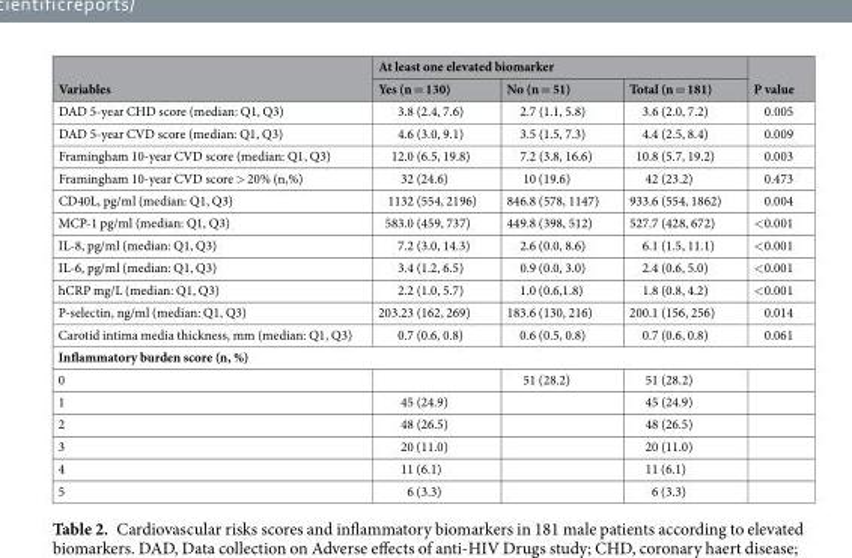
<table><thead><tr><td rowspan="2">Variables</td><td colspan="3">At least one elevated biomarker</td><td rowspan="2">P value</td></tr><tr><td>Yes (n = 130)</td><td>No (n = 51)</td><td>Total (n = 181)</td></tr></thead><tbody><tr><td>DAD 5-year CHD score (median: Q1, Q3)</td><td>3.8 (2.4, 7.6)</td><td>2.7 (1.1, 5.8)</td><td>3.6 (2.0, 7.2)</td><td>0.005</td></tr><tr><td>DAD 5-year CVD score (median: Q1, Q3)</td><td>4.6 (3.0, 9.1)</td><td>3.5 (1.5, 7.3)</td><td>4.4 (2.5, 8.4)</td><td>0.009</td></tr><tr><td>Framingham 10-year CVD score (median: Q1, Q3)</td><td>12.0 (6.5, 19.8)</td><td>7.2 (3.8, 16.6)</td><td>10.8 (5.7, 19.2)</td><td>0.003</td></tr><tr><td>Framingham 10-year CVD score &gt; 20% (n,%)</td><td>32 (24.6)</td><td>10 (19.6)</td><td>42 (23.2)</td><td>0.473</td></tr><tr><td>CD40L, pg/ml (median: Q1, Q3)</td><td>1132 (554, 2196)</td><td>846.8 (578, 1147)</td><td>933.6 (554, 1862)</td><td>0.004</td></tr><tr><td>MCP-1 pg/ml (median: Q1, Q3)</td><td>583.0 (459, 737)</td><td>449.8 (398, 512)</td><td>527.7 (428, 672)</td><td>&lt;0.001</td></tr><tr><td>IL-8, pg/ml (median: Q1, Q3)</td><td>7.2 (3.0, 14.3)</td><td>2.6 (0.0, 8.6)</td><td>6.1 (1.5, 11.1)</td><td>&lt;0.001</td></tr><tr><td>IL-6, pg/ml (median: Q1, Q3)</td><td>3.4 (1.2, 6.5)</td><td>0.9 (0.0, 3.0)</td><td>2.4 (0.6, 5.0)</td><td>&lt;0.001</td></tr><tr><td>hCRP mg/L (median: Q1, Q3)</td><td>2.2 (1.0, 5.7)</td><td>1.0 (0.6,1.8)</td><td>1.8 (0.8, 4.2)</td><td>&lt;0.001</td></tr><tr><td>P-selectin, ng/ml (median: Q1, Q3)</td><td>203.23 (162, 269)</td><td>183.6 (130, 216)</td><td>200.1 (156, 256)</td><td>0.014</td></tr><tr><td>Carotid intima media thickness, mm (median: Q1, Q3)</td><td>0.7 (0.6, 0.8)</td><td>0.6 (0.5, 0.8)</td><td>0.7 (0.6, 0.8)</td><td>0.061</td></tr><tr><td colspan="5">Inflammatory burden score (n, %)</td></tr><tr><td>0</td><td></td><td>51 (28.2)</td><td>51 (28.2)</td><td></td></tr><tr><td>1</td><td>45 (24.9)</td><td></td><td>45 (24.9)</td><td></td></tr><tr><td>2</td><td>48 (26.5)</td><td></td><td>48 (26.5)</td><td></td></tr><tr><td>3</td><td>20 (11.0)</td><td></td><td>20 (11.0)</td><td></td></tr><tr><td>4</td><td>11 (6.1)</td><td></td><td>11 (6.1)</td><td></td></tr><tr><td>5</td><td>6 (3.3)</td><td></td><td>6 (3.3)</td><td></td></tr></tbody></table>